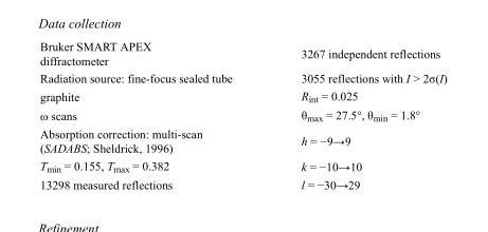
<table><tbody><tr><td>Bruker SMART APEX diffractometer</td><td>3267 independent reflections</td></tr><tr><td>Radiation source: fine-focus sealed tube</td><td>3055 reflections with I &gt; 2σ(I)</td></tr><tr><td>graphite</td><td>R<sub>int</sub> = 0.025</td></tr><tr><td>ω scans</td><td>θ<sub>max</sub> = 27.5°, θ<sub>min</sub> = 1.8°</td></tr><tr><td>Absorption correction: multi-scan (SADABS; Sheldrick, 1996)</td><td>h = −9→9</td></tr><tr><td>T<sub>min</sub> = 0.155, T<sub>max</sub> = 0.382</td><td>k = −10→10</td></tr><tr><td>13298 measured reflections</td><td>l = −30→29</td></tr></tbody></table>